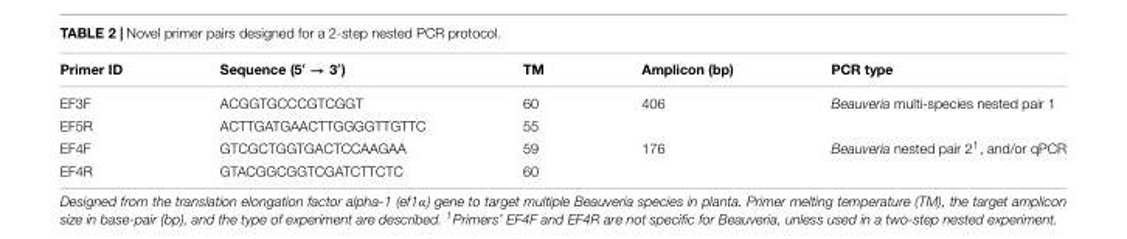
<table><thead><tr><td>Primer ID</td><td>Sequence (5′ → 3′)</td><td>TM</td><td>Amplicon (bp)</td><td>PCR type</td></tr></thead><tbody><tr><td>EF3F</td><td>ACGGTGCCCGTCGGT</td><td>60</td><td>406</td><td>Beauveria multi-species nested pair 1</td></tr><tr><td>EF5R</td><td>ACTTGATGAACTTGGGGTTGTTC</td><td>55</td><td></td><td></td></tr><tr><td>EF4F</td><td>GTCGCTGGTGACTCCAAGAA</td><td>59</td><td>176</td><td>Beauveria nested pair 2<sup>1</sup>, and/or qPCR</td></tr><tr><td>EF4R</td><td>GTACGGCGGTCGATCTTCTC</td><td>60</td><td></td><td></td></tr></tbody></table>